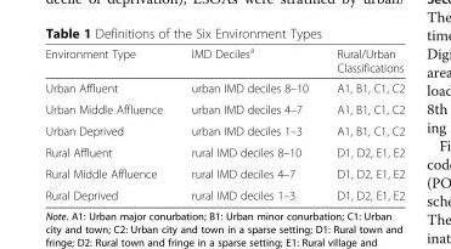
<table><thead><tr><td>Environment Type</td><td>IMD Deciles<sup>a</sup></td><td>Rural/Urban Classifications</td></tr></thead><tbody><tr><td>Urban Affluent</td><td>urban IMD deciles 8–10</td><td>A1, B1, C1, C2</td></tr><tr><td>Urban Middle Affluence</td><td>urban IMD deciles 4–7</td><td>A1, B1, C1, C2</td></tr><tr><td>Urban Deprived</td><td>urban IMD deciles 1–3</td><td>A1, B1, C1, C2</td></tr><tr><td>Rural Affluent</td><td>rural IMD deciles 8–10</td><td>D1, D2, E1, E2</td></tr><tr><td>Rural Middle Affluence</td><td>rural IMD deciles 4–7</td><td>D1, D2, E1, E2</td></tr><tr><td>Rural Deprived</td><td>rural IMD deciles 1–3</td><td>D1, D2, E1, E2</td></tr></tbody></table>